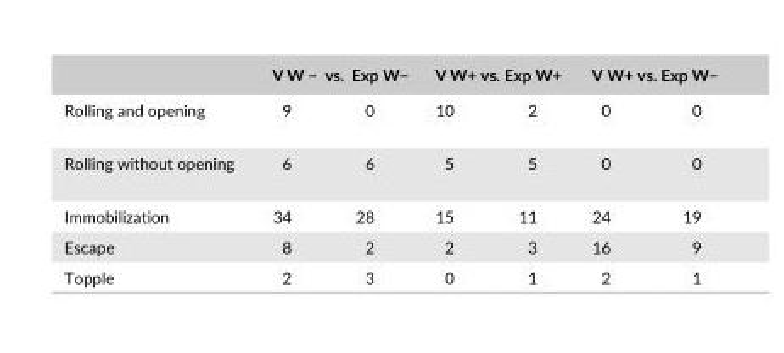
<table><thead><tr><td rowspan="2">Rolling and opening</td><td colspan="2">V W − vs. Exp W−</td><td colspan="2">V W+ vs. Exp W+</td><td colspan="2">V W+ vs. Exp W−</td></tr><tr><td>9</td><td>0</td><td>10</td><td>2</td><td>0</td><td>0</td></tr></thead><tbody><tr><td>Rolling without opening</td><td>6</td><td>6</td><td>5</td><td>5</td><td>0</td><td>0</td></tr><tr><td>Immobilization</td><td>34</td><td>28</td><td>15</td><td>11</td><td>24</td><td>19</td></tr><tr><td>Escape</td><td>8</td><td>2</td><td>2</td><td>3</td><td>16</td><td>9</td></tr><tr><td>Topple</td><td>2</td><td>3</td><td>0</td><td>1</td><td>2</td><td>1</td></tr></tbody></table>